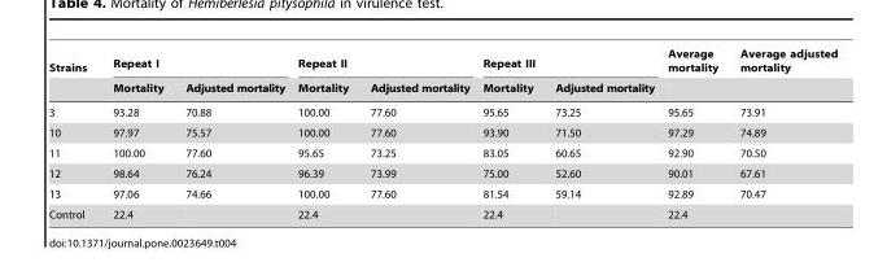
<table><thead><tr><td rowspan="2">Strains</td><td colspan="2">Repeat I</td><td colspan="2">Repeat II</td><td colspan="2">Repeat III</td><td rowspan="2">Average mortality</td><td rowspan="2">Average adjusted mortality</td></tr><tr><td>Mortality</td><td>Adjusted mortality</td><td>Mortality</td><td>Adjusted mortality</td><td>Mortality</td><td>Adjusted mortality</td></tr></thead><tbody><tr><td>3</td><td>93.28</td><td>70.88</td><td>100.00</td><td>77.60</td><td>95.65</td><td>73.25</td><td>95.65</td><td>73.91</td></tr><tr><td>10</td><td>97.97</td><td>75.57</td><td>100.00</td><td>77.60</td><td>93.90</td><td>71.50</td><td>97.29</td><td>74.89</td></tr><tr><td>11</td><td>100.00</td><td>77.60</td><td>95.65</td><td>73.25</td><td>83.05</td><td>60.65</td><td>92.90</td><td>70.50</td></tr><tr><td>12</td><td>98.64</td><td>76.24</td><td>96.39</td><td>73.99</td><td>75.00</td><td>52.60</td><td>90.01</td><td>67.61</td></tr><tr><td>13</td><td>97.06</td><td>74.66</td><td>100.00</td><td>77.60</td><td>81.54</td><td>59.14</td><td>92.89</td><td>70.47</td></tr><tr><td>Control</td><td>22.4</td><td></td><td>22.4</td><td></td><td>22.4</td><td></td><td>22.4</td><td></td></tr></tbody></table>